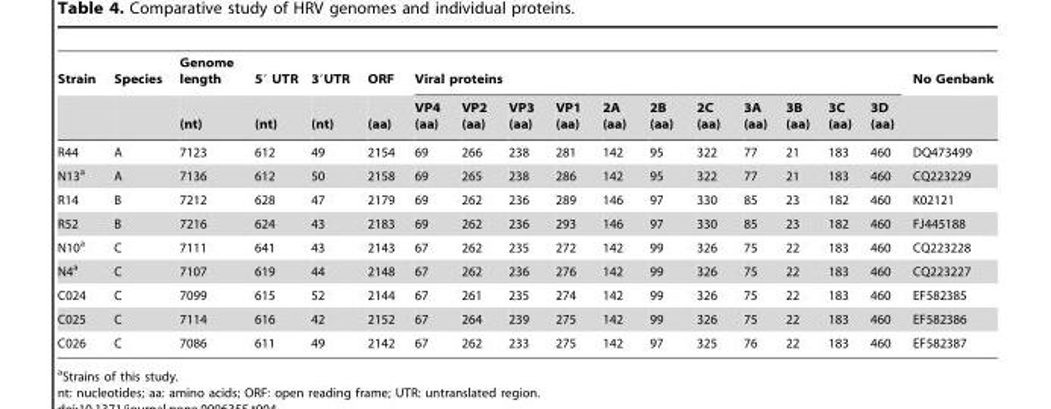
<table><thead><tr><td rowspan="2">Strain</td><td rowspan="2">Species</td><td rowspan="2">Genome length (nt)</td><td rowspan="2">5′ UTR (nt)</td><td rowspan="2">3′UTR (nt)</td><td rowspan="2">ORF (aa)</td><td colspan="11">Viral proteins</td><td rowspan="2">No Genbank</td></tr><tr><td>VP4 (aa)</td><td>VP2 (aa)</td><td>VP3 (aa)</td><td>VP1 (aa)</td><td>2A (aa)</td><td>2B (aa)</td><td>2C (aa)</td><td>3A (aa)</td><td>3B (aa)</td><td>3C (aa)</td><td>3D (aa)</td></tr></thead><tbody><tr><td>R44</td><td>A</td><td>7123</td><td>612</td><td>49</td><td>2154</td><td>69</td><td>266</td><td>238</td><td>281</td><td>142</td><td>95</td><td>322</td><td>77</td><td>21</td><td>183</td><td>460</td><td>DQ473499</td></tr><tr><td>N13<sup>a</sup></td><td>A</td><td>7136</td><td>612</td><td>50</td><td>2158</td><td>69</td><td>265</td><td>238</td><td>286</td><td>142</td><td>95</td><td>322</td><td>77</td><td>21</td><td>183</td><td>460</td><td>CQ223229</td></tr><tr><td>R14</td><td>B</td><td>7212</td><td>628</td><td>47</td><td>2179</td><td>69</td><td>262</td><td>236</td><td>289</td><td>146</td><td>97</td><td>330</td><td>85</td><td>23</td><td>182</td><td>460</td><td>K02121</td></tr><tr><td>R52</td><td>B</td><td>7216</td><td>624</td><td>43</td><td>2183</td><td>69</td><td>262</td><td>236</td><td>293</td><td>146</td><td>97</td><td>330</td><td>85</td><td>23</td><td>182</td><td>460</td><td>FJ445188</td></tr><tr><td>N10<sup>a</sup></td><td>C</td><td>7111</td><td>641</td><td>43</td><td>2143</td><td>67</td><td>262</td><td>235</td><td>272</td><td>142</td><td>99</td><td>326</td><td>75</td><td>22</td><td>183</td><td>460</td><td>CQ223228</td></tr><tr><td>N4<sup>a</sup></td><td>C</td><td>7107</td><td>619</td><td>44</td><td>2148</td><td>67</td><td>262</td><td>236</td><td>276</td><td>142</td><td>99</td><td>326</td><td>75</td><td>22</td><td>183</td><td>460</td><td>CQ223227</td></tr><tr><td>C024</td><td>C</td><td>7099</td><td>615</td><td>52</td><td>2144</td><td>67</td><td>261</td><td>235</td><td>274</td><td>142</td><td>99</td><td>326</td><td>75</td><td>22</td><td>183</td><td>460</td><td>EF582385</td></tr><tr><td>C025</td><td>C</td><td>7114</td><td>616</td><td>42</td><td>2152</td><td>67</td><td>264</td><td>239</td><td>275</td><td>142</td><td>99</td><td>326</td><td>75</td><td>22</td><td>183</td><td>460</td><td>EF582386</td></tr><tr><td>C026</td><td>C</td><td>7086</td><td>611</td><td>49</td><td>2142</td><td>67</td><td>262</td><td>233</td><td>275</td><td>142</td><td>97</td><td>325</td><td>76</td><td>22</td><td>183</td><td>460</td><td>EF582387</td></tr></tbody></table>